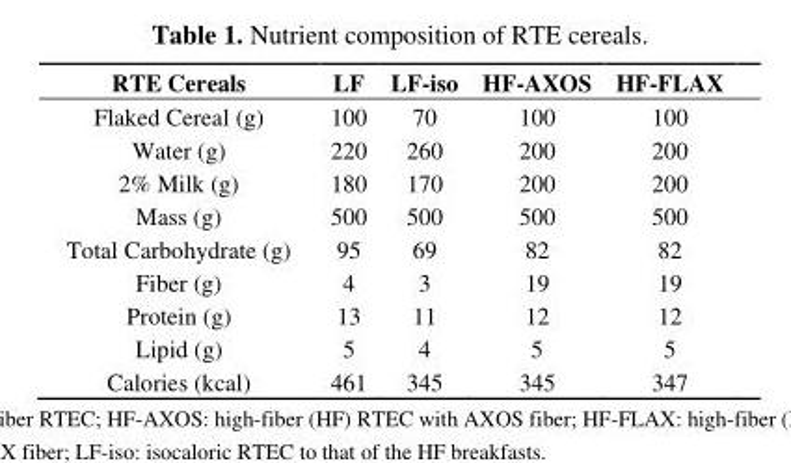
<table><thead><tr><td>RTE Cereals</td><td>LF</td><td>LF-iso</td><td>HF-AXOS</td><td>HF-FLAX</td></tr></thead><tbody><tr><td>Flaked Cereal (g)</td><td>100</td><td>70</td><td>100</td><td>100</td></tr><tr><td>Water (g)</td><td>220</td><td>260</td><td>200</td><td>200</td></tr><tr><td>2% Milk (g)</td><td>180</td><td>170</td><td>200</td><td>200</td></tr><tr><td>Mass (g)</td><td>500</td><td>500</td><td>500</td><td>500</td></tr><tr><td>Total Carbohydrate (g)</td><td>95</td><td>69</td><td>82</td><td>82</td></tr><tr><td>Fiber (g)</td><td>4</td><td>3</td><td>19</td><td>19</td></tr><tr><td>Protein (g)</td><td>13</td><td>11</td><td>12</td><td>12</td></tr><tr><td>Lipid (g)</td><td>5</td><td>4</td><td>5</td><td>5</td></tr><tr><td>Calories (kcal)</td><td>461</td><td>345</td><td>345</td><td>347</td></tr></tbody></table>